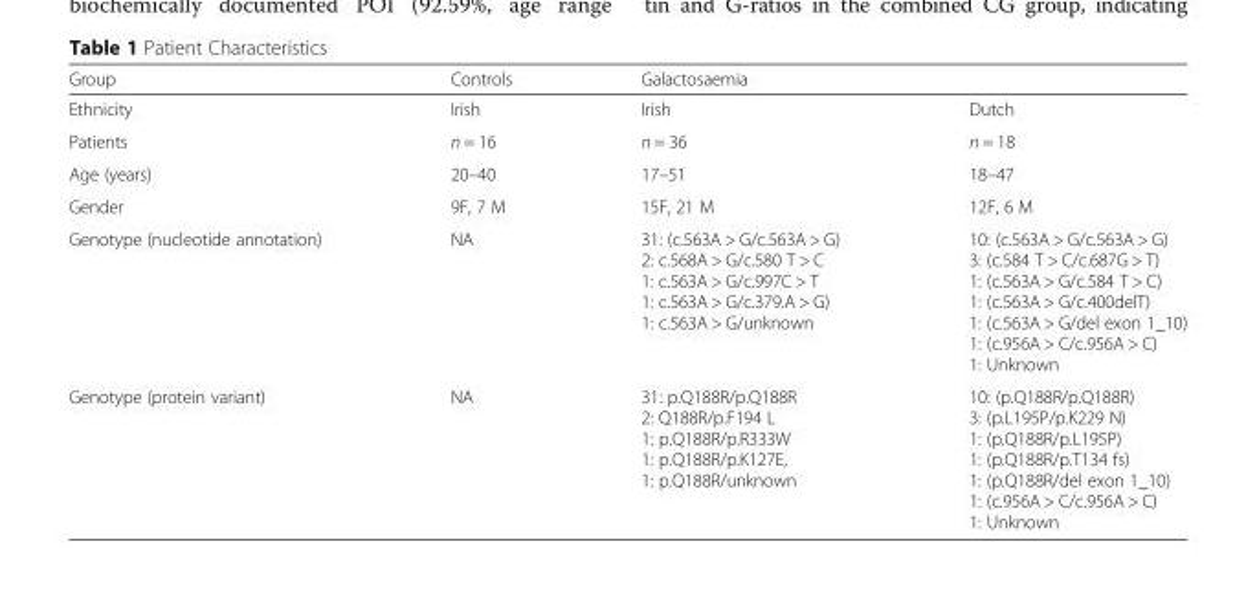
<table><thead><tr><td rowspan="2">Group Ethnicity</td><td rowspan="2">Controls Irish</td><td colspan="2">Galactosaemia</td></tr><tr><td>Irish</td><td>Dutch</td></tr></thead><tbody><tr><td>Patients</td><td>n = 16</td><td>n = 36</td><td>n = 18</td></tr><tr><td>Age (years)</td><td>20–40</td><td>17–51</td><td>18–47</td></tr><tr><td>Gender</td><td>9F, 7 M</td><td>15F, 21 M</td><td>12F, 6 M</td></tr><tr><td>Genotype (nucleotide annotation)</td><td>NA</td><td>31: (c.563A &gt; G/c.563A &gt; G) 2: c.568A &gt; G/c.580 T &gt; C 1: c.563A &gt; G/c.997C &gt; T 1: c.563A &gt; G/c.379.A &gt; G) 1: c.563A &gt; G/unknown</td><td>10: (c.563A &gt; G/c.563A &gt; G) 3: (c.584 T &gt; C/c.687G &gt; T) 1: (c.563A &gt; G/c.584 T &gt; C) 1: (c.563A &gt; G/c.400delT) 1: (c.563A &gt; G/del exon 1_10) 1: (c.956A &gt; C/c.956A &gt; C) 1: Unknown</td></tr><tr><td>Genotype (protein variant)</td><td>NA</td><td>31: p.Q188R/p.Q188R 2: Q188R/p.F194 L 1: p.Q188R/p.R333W 1: p.Q188R/p.K127E, 1: p.Q188R/unknown</td><td>10: (p.Q188R/p.Q188R) 3: (p.L195P/p.K229 N) 1: (p.Q188R/p.L195P) 1: (p.Q188R/p.T134 fs) 1: (p.Q188R/del exon 1_10) 1: (c.956A &gt; C/c.956A &gt; C) 1: Unknown</td></tr></tbody></table>